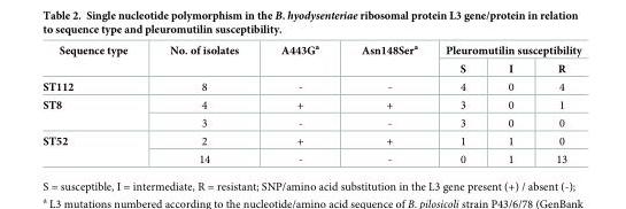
<table><thead><tr><td rowspan="2">Sequence type</td><td rowspan="2">No. of isolates</td><td rowspan="2">A443G<sup>a</sup></td><td rowspan="2">Asn148Ser<sup>a</sup></td><td colspan="3">Pleuromutilin susceptibility</td></tr><tr><td>S</td><td>I</td><td>R</td></tr></thead><tbody><tr><td>ST112</td><td>8</td><td>-</td><td>-</td><td>4</td><td>0</td><td>4</td></tr><tr><td rowspan="2">ST8</td><td>4</td><td>+</td><td>+</td><td>3</td><td>0</td><td>1</td></tr><tr><td>3</td><td>-</td><td>-</td><td>3</td><td>0</td><td>0</td></tr><tr><td rowspan="2">ST52</td><td>2</td><td>+</td><td>+</td><td>1</td><td>1</td><td>0</td></tr><tr><td>14</td><td>-</td><td>-</td><td>0</td><td>1</td><td>13</td></tr></tbody></table>